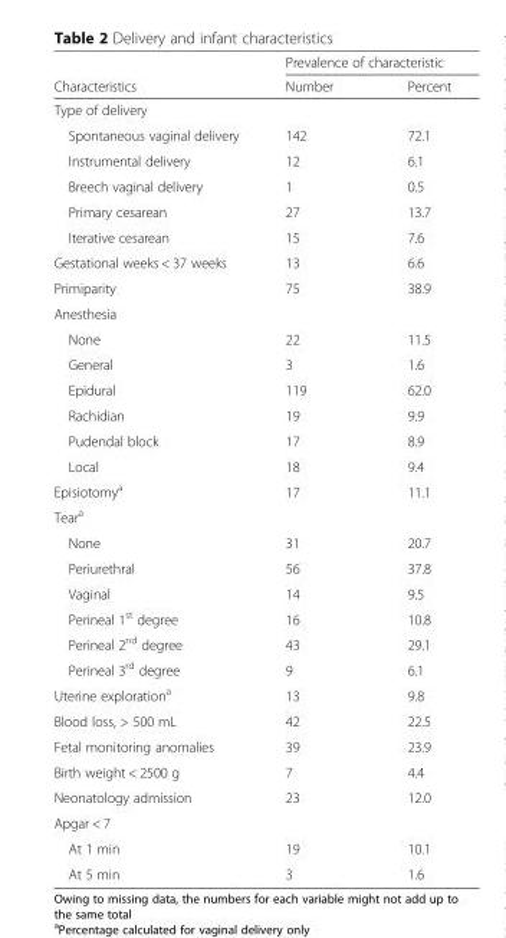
<table><thead><tr><td rowspan="2">Characteristics</td><td colspan="2">Prevalence of characteristic</td></tr><tr><td>Number</td><td>Percent</td></tr></thead><tbody><tr><td colspan="3">Type of delivery</td></tr><tr><td>Spontaneous vaginal delivery</td><td>142</td><td>72.1</td></tr><tr><td>Instrumental delivery</td><td>12</td><td>6.1</td></tr><tr><td>Breech vaginal delivery</td><td>1</td><td>0.5</td></tr><tr><td>Primary cesarean</td><td>27</td><td>13.7</td></tr><tr><td>Iterative cesarean</td><td>15</td><td>7.6</td></tr><tr><td>Gestational weeks &lt; 37 weeks</td><td>13</td><td>6.6</td></tr><tr><td>Primiparity</td><td>75</td><td>38.9</td></tr><tr><td colspan="3">Anesthesia</td></tr><tr><td>None</td><td>22</td><td>11.5</td></tr><tr><td>General</td><td>3</td><td>1.6</td></tr><tr><td>Epidural</td><td>119</td><td>62.0</td></tr><tr><td>Rachidian</td><td>19</td><td>9.9</td></tr><tr><td>Pudendal block</td><td>17</td><td>8.9</td></tr><tr><td>Local</td><td>18</td><td>9.4</td></tr><tr><td>Episiotomy<sup>a</sup></td><td>17</td><td>11.1</td></tr><tr><td colspan="3">Tear<sup>a</sup></td></tr><tr><td>None</td><td>31</td><td>20.7</td></tr><tr><td>Periurethral</td><td>56</td><td>37.8</td></tr><tr><td>Vaginal</td><td>14</td><td>9.5</td></tr><tr><td>Perineal 1<sup>st</sup> degree</td><td>16</td><td>10.8</td></tr><tr><td>Perineal 2<sup>nd</sup> degree</td><td>43</td><td>29.1</td></tr><tr><td>Perineal 3<sup>rd</sup> degree</td><td>9</td><td>6.1</td></tr><tr><td>Uterine exploration<sup>a</sup></td><td>13</td><td>9.8</td></tr><tr><td>Blood loss, &gt; 500 mL</td><td>42</td><td>22.5</td></tr><tr><td>Fetal monitoring anomalies</td><td>39</td><td>23.9</td></tr><tr><td>Birth weight &lt; 2500 g</td><td>7</td><td>4.4</td></tr><tr><td>Neonatology admission</td><td>23</td><td>12.0</td></tr><tr><td colspan="3">Apgar &lt; 7</td></tr><tr><td>At 1 min</td><td>19</td><td>10.1</td></tr><tr><td>At 5 min</td><td>3</td><td>1.6</td></tr></tbody></table>